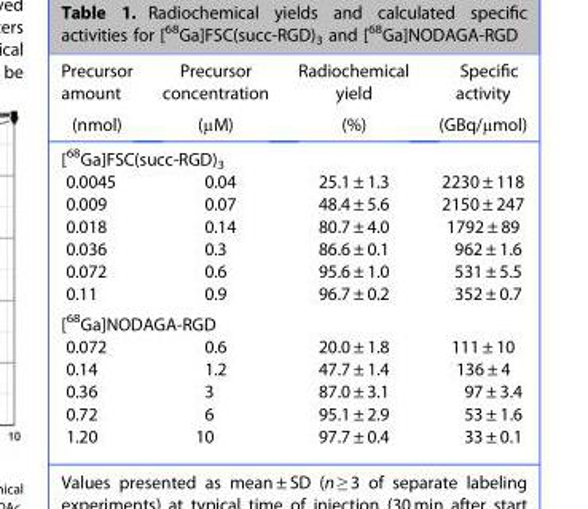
<table><thead><tr><td rowspan="2">Precursor amount (nmol)</td><td rowspan="2">Precursor concentration (μM)</td><td rowspan="2">Radiochemical yield (%)</td><td rowspan="2">Specific activity (GBq/μmol)</td></tr><tr></tr></thead><tbody><tr><td colspan="4">[<sup>68</sup>Ga]FSC(succ-RGD)<sub>3</sub></td></tr><tr><td>0.0045</td><td>0.04</td><td>25.1 ± 1.3</td><td>2230 ± 118</td></tr><tr><td>0.009</td><td>0.07</td><td>48.4 ± 5.6</td><td>2150 ± 247</td></tr><tr><td>0.018</td><td>0.14</td><td>80.7 ± 4.0</td><td>1792 ± 89</td></tr><tr><td>0.036</td><td>0.3</td><td>86.6 ± 0.1</td><td>962 ± 1.6</td></tr><tr><td>0.072</td><td>0.6</td><td>95.6 ± 1.0</td><td>531 ± 5.5</td></tr><tr><td>0.11</td><td>0.9</td><td>96.7 ± 0.2</td><td>352 ± 0.7</td></tr><tr><td colspan="4">[<sup>68</sup>Ga]NODAGA-RGD</td></tr><tr><td>0.072</td><td>0.6</td><td>20.0 ± 1.8</td><td>111 ± 10</td></tr><tr><td>0.14</td><td>1.2</td><td>47.7 ± 1.4</td><td>136 ± 4</td></tr><tr><td>0.36</td><td>3</td><td>87.0 ± 3.1</td><td>97 ± 3.4</td></tr><tr><td>0.72</td><td>6</td><td>95.1 ± 2.9</td><td>53 ± 1.6</td></tr><tr><td>1.20</td><td>10</td><td>97.7 ± 0.4</td><td>33 ± 0.1</td></tr></tbody></table>